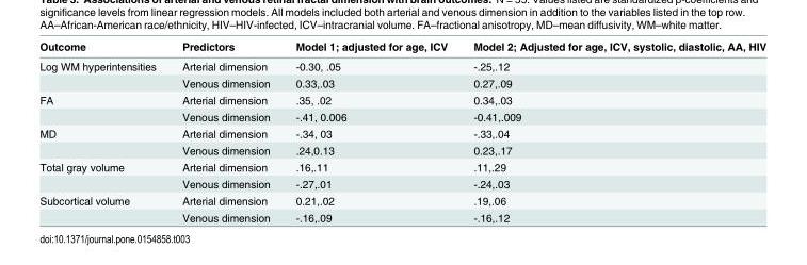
<table><thead><tr><td>Outcome</td><td>Predictors</td><td>Model 1; adjusted for age, ICV</td><td>Model 2; Adjusted for age, ICV, systolic, diastolic, AA, HIV</td></tr></thead><tbody><tr><td rowspan="2">Log WM hyperintensities</td><td>Arterial dimension</td><td>-0.30, .05</td><td>-.25,.12</td></tr><tr><td>Venous dimension</td><td>0.33,.03</td><td>0.27,.09</td></tr><tr><td rowspan="2">FA</td><td>Arterial dimension</td><td>.35, .02</td><td>0.34,.03</td></tr><tr><td>Venous dimension</td><td>-.41, 0.006</td><td>-0.41,.009</td></tr><tr><td rowspan="2">MD</td><td>Arterial dimension</td><td>-.34, 03</td><td>-.33,.04</td></tr><tr><td>Venous dimension</td><td>.24,0.13</td><td>0.23,.17</td></tr><tr><td rowspan="2">Total gray volume</td><td>Arterial dimension</td><td>.16,.11</td><td>.11,.29</td></tr><tr><td>Venous dimension</td><td>-.27,.01</td><td>-.24,.03</td></tr><tr><td rowspan="2">Subcortical volume</td><td>Arterial dimension</td><td>0.21,.02</td><td>.19,.06</td></tr><tr><td>Venous dimension</td><td>-.16,.09</td><td>-.16,.12</td></tr></tbody></table>